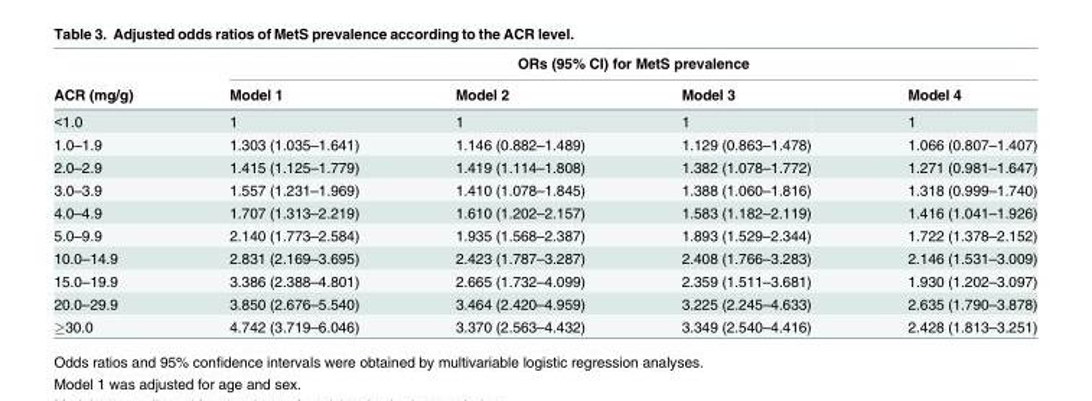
<table><thead><tr><td rowspan="2">ACR (mg/g)</td><td colspan="4">ORs (95% CI) for MetS prevalence</td></tr><tr><td>Model 1</td><td>Model 2</td><td>Model 3</td><td>Model 4</td></tr></thead><tbody><tr><td>&lt;1.0</td><td>1</td><td>1</td><td>1</td><td>1</td></tr><tr><td>1.0–1.9</td><td>1.303 (1.035–1.641)</td><td>1.146 (0.882–1.489)</td><td>1.129 (0.863–1.478)</td><td>1.066 (0.807–1.407)</td></tr><tr><td>2.0–2.9</td><td>1.415 (1.125–1.779)</td><td>1.419 (1.114–1.808)</td><td>1.382 (1.078–1.772)</td><td>1.271 (0.981–1.647)</td></tr><tr><td>3.0–3.9</td><td>1.557 (1.231–1.969)</td><td>1.410 (1.078–1.845)</td><td>1.388 (1.060–1.816)</td><td>1.318 (0.999–1.740)</td></tr><tr><td>4.0–4.9</td><td>1.707 (1.313–2.219)</td><td>1.610 (1.202–2.157)</td><td>1.583 (1.182–2.119)</td><td>1.416 (1.041–1.926)</td></tr><tr><td>5.0–9.9</td><td>2.140 (1.773–2.584)</td><td>1.935 (1.568–2.387)</td><td>1.893 (1.529–2.344)</td><td>1.722 (1.378–2.152)</td></tr><tr><td>10.0–14.9</td><td>2.831 (2.169–3.695)</td><td>2.423 (1.787–3.287)</td><td>2.408 (1.766–3.283)</td><td>2.146 (1.531–3.009)</td></tr><tr><td>15.0–19.9</td><td>3.386 (2.388–4.801)</td><td>2.665 (1.732–4.099)</td><td>2.359 (1.511–3.681)</td><td>1.930 (1.202–3.097)</td></tr><tr><td>20.0–29.9</td><td>3.850 (2.676–5.540)</td><td>3.464 (2.420–4.959)</td><td>3.225 (2.245–4.633)</td><td>2.635 (1.790–3.878)</td></tr><tr><td>≥30.0</td><td>4.742 (3.719–6.046)</td><td>3.370 (2.563–4.432)</td><td>3.349 (2.540–4.416)</td><td>2.428 (1.813–3.251)</td></tr></tbody></table>